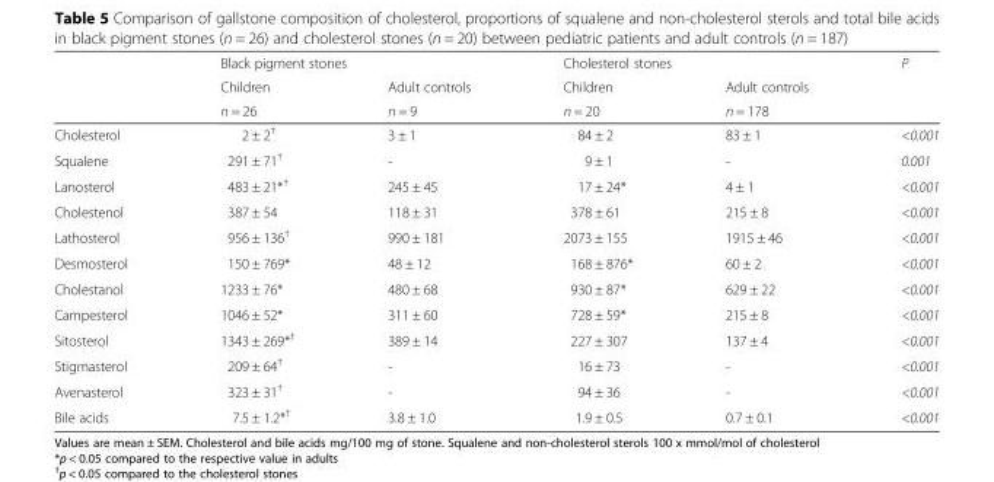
<table><thead><tr><td rowspan="3"></td><td colspan="2">Black pigment stones</td><td colspan="2">Cholesterol stones</td><td rowspan="3">P</td></tr><tr><td rowspan="2">Children n = 26</td><td rowspan="2">Adult controls n = 9</td><td rowspan="2">Children n = 20</td><td rowspan="2">Adult controls n = 178</td></tr><tr></tr></thead><tbody><tr><td>Cholesterol</td><td>2 ± 2<sup>†</sup></td><td>3 ± 1</td><td>84 ± 2</td><td>83 ± 1</td><td>&lt;0.001</td></tr><tr><td>Squalene</td><td>291 ± 71<sup>†</sup></td><td>-</td><td>9 ± 1</td><td>-</td><td>0.001</td></tr><tr><td>Lanosterol</td><td>483 ± 21*<sup>†</sup></td><td>245 ± 45</td><td>17 ± 24*</td><td>4 ± 1</td><td>&lt;0.001</td></tr><tr><td>Cholestenol</td><td>387 ± 54</td><td>118 ± 31</td><td>378 ± 61</td><td>215 ± 8</td><td>&lt;0.001</td></tr><tr><td>Lathosterol</td><td>956 ± 136<sup>†</sup></td><td>990 ± 181</td><td>2073 ± 155</td><td>1915 ± 46</td><td>&lt;0.001</td></tr><tr><td>Desmosterol</td><td>150 ± 769*</td><td>48 ± 12</td><td>168 ± 876*</td><td>60 ± 2</td><td>&lt;0.001</td></tr><tr><td>Cholestanol</td><td>1233 ± 76*</td><td>480 ± 68</td><td>930 ± 87*</td><td>629 ± 22</td><td>&lt;0.001</td></tr><tr><td>Campesterol</td><td>1046 ± 52*</td><td>311 ± 60</td><td>728 ± 59*</td><td>215 ± 8</td><td>&lt;0.001</td></tr><tr><td>Sitosterol</td><td>1343 ± 269*<sup>†</sup></td><td>389 ± 14</td><td>227 ± 307</td><td>137 ± 4</td><td>&lt;0.001</td></tr><tr><td>Stigmasterol</td><td>209 ± 64<sup>†</sup></td><td>-</td><td>16 ± 73</td><td>-</td><td>&lt;0.001</td></tr><tr><td>Avenasterol</td><td>323 ± 31<sup>†</sup></td><td>-</td><td>94 ± 36</td><td>-</td><td>&lt;0.001</td></tr><tr><td>Bile acids</td><td>7.5 ± 1.2*<sup>†</sup></td><td>3.8 ± 1.0</td><td>1.9 ± 0.5</td><td>0.7 ± 0.1</td><td>&lt;0.001</td></tr></tbody></table>